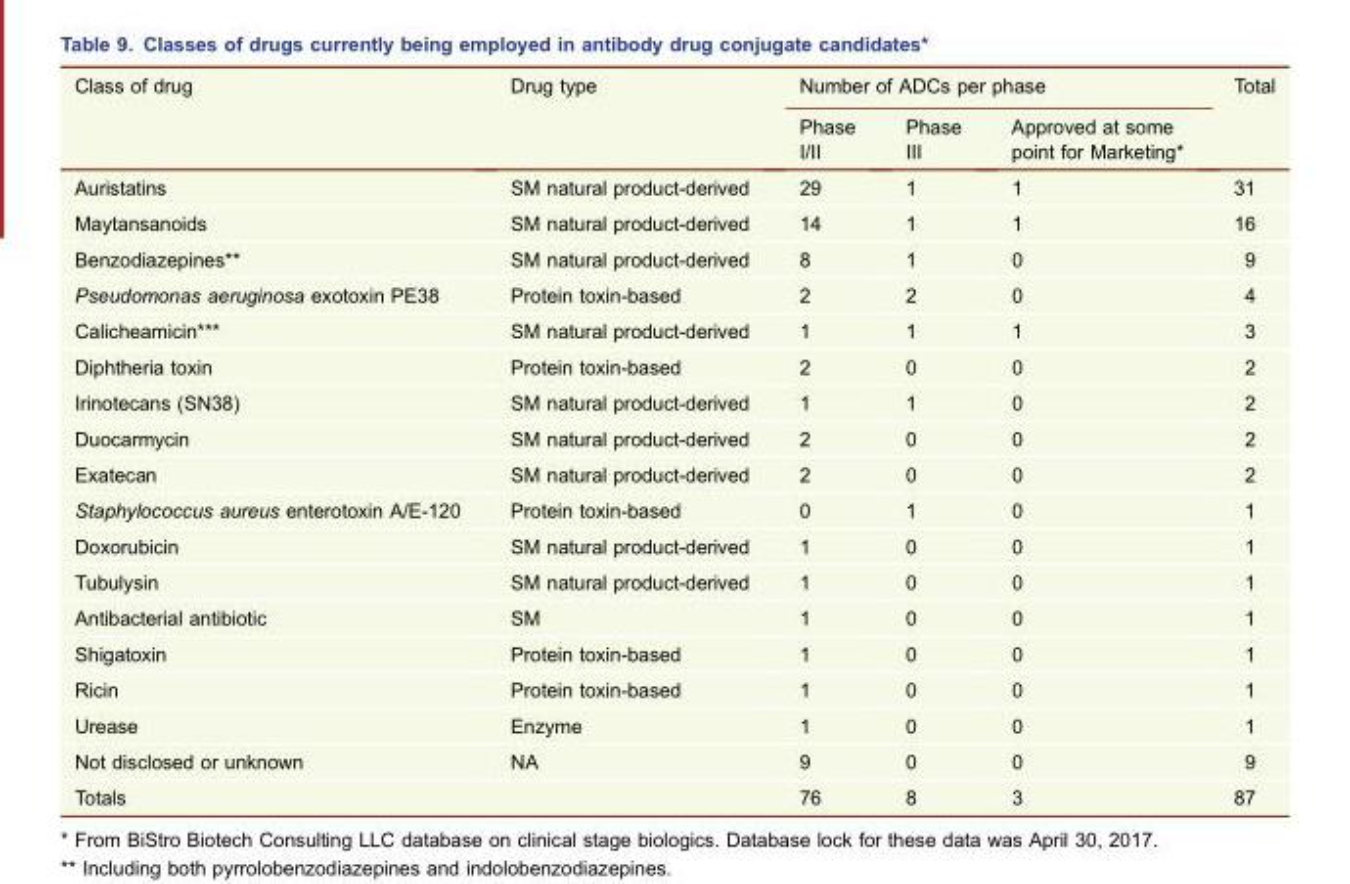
<table><thead><tr><td rowspan="2">Class of drug</td><td rowspan="2">Drug type</td><td colspan="3">Number of ADCs per phase</td><td rowspan="2">Total</td></tr><tr><td>Phase I/II</td><td>Phase III</td><td>Approved at some point for Marketing*</td></tr></thead><tbody><tr><td>Auristatins</td><td>SM natural product-derived</td><td>29</td><td>1</td><td>1</td><td>31</td></tr><tr><td>Maytansanoids</td><td>SM natural product-derived</td><td>14</td><td>1</td><td>1</td><td>16</td></tr><tr><td>Benzodiazepines**</td><td>SM natural product-derived</td><td>8</td><td>1</td><td>0</td><td>9</td></tr><tr><td>Pseudomonas aeruginosa exotoxin PE38</td><td>Protein toxin-based</td><td>2</td><td>2</td><td>0</td><td>4</td></tr><tr><td>Calicheamicin***</td><td>SM natural product-derived</td><td>1</td><td>1</td><td>1</td><td>3</td></tr><tr><td>Diphtheria toxin</td><td>Protein toxin-based</td><td>2</td><td>0</td><td>0</td><td>2</td></tr><tr><td>Irinotecans (SN38)</td><td>SM natural product-derived</td><td>1</td><td>1</td><td>0</td><td>2</td></tr><tr><td>Duocarmycin</td><td>SM natural product-derived</td><td>2</td><td>0</td><td>0</td><td>2</td></tr><tr><td>Exatecan</td><td>SM natural product-derived</td><td>2</td><td>0</td><td>0</td><td>2</td></tr><tr><td>Staphylococcus aureus enterotoxin A/E-120</td><td>Protein toxin-based</td><td>0</td><td>1</td><td>0</td><td>1</td></tr><tr><td>Doxorubicin</td><td>SM natural product-derived</td><td>1</td><td>0</td><td>0</td><td>1</td></tr><tr><td>Tubulysin</td><td>SM natural product-derived</td><td>1</td><td>0</td><td>0</td><td>1</td></tr><tr><td>Antibacterial antibiotic</td><td>SM</td><td>1</td><td>0</td><td>0</td><td>1</td></tr><tr><td>Shigatoxin</td><td>Protein toxin-based</td><td>1</td><td>0</td><td>0</td><td>1</td></tr><tr><td>Ricin</td><td>Protein toxin-based</td><td>1</td><td>0</td><td>0</td><td>1</td></tr><tr><td>Urease</td><td>Enzyme</td><td>1</td><td>0</td><td>0</td><td>1</td></tr><tr><td>Not disclosed or unknown</td><td>NA</td><td>9</td><td>0</td><td>0</td><td>9</td></tr><tr><td>Totals</td><td></td><td>76</td><td>8</td><td>3</td><td>87</td></tr></tbody></table>